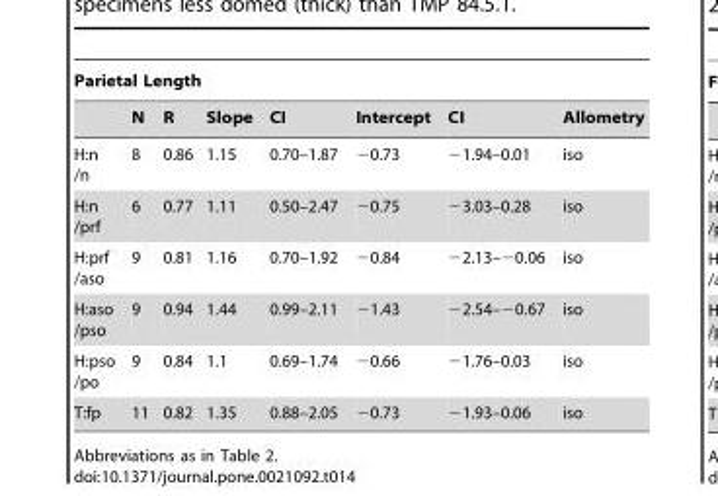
<table><thead><tr><td colspan="8">Parietal Length</td></tr><tr><td></td><td>N</td><td>R</td><td>Slope</td><td>CI</td><td>Intercept</td><td>CI</td><td>Allometry</td></tr></thead><tbody><tr><td>H:n /n</td><td>8</td><td>0.86</td><td>1.15</td><td>0.70–1.87</td><td>−0.73</td><td>−1.94–0.01</td><td>iso</td></tr><tr><td>H:n /prf</td><td>6</td><td>0.77</td><td>1.11</td><td>0.50–2.47</td><td>−0.75</td><td>−3.03–0.28</td><td>iso</td></tr><tr><td>H:prf /aso</td><td>9</td><td>0.81</td><td>1.16</td><td>0.70–1.92</td><td>−0.84</td><td>−2.13–−0.06</td><td>iso</td></tr><tr><td>H:aso /pso</td><td>9</td><td>0.94</td><td>1.44</td><td>0.99–2.11</td><td>−1.43</td><td>−2.54–−0.67</td><td>iso</td></tr><tr><td>H:pso /po</td><td>9</td><td>0.84</td><td>1.1</td><td>0.69–1.74</td><td>−0.66</td><td>−1.76–0.03</td><td>iso</td></tr><tr><td>T:fp</td><td>11</td><td>0.82</td><td>1.35</td><td>0.88–2.05</td><td>−0.73</td><td>−1.93–0.06</td><td>iso</td></tr></tbody></table>